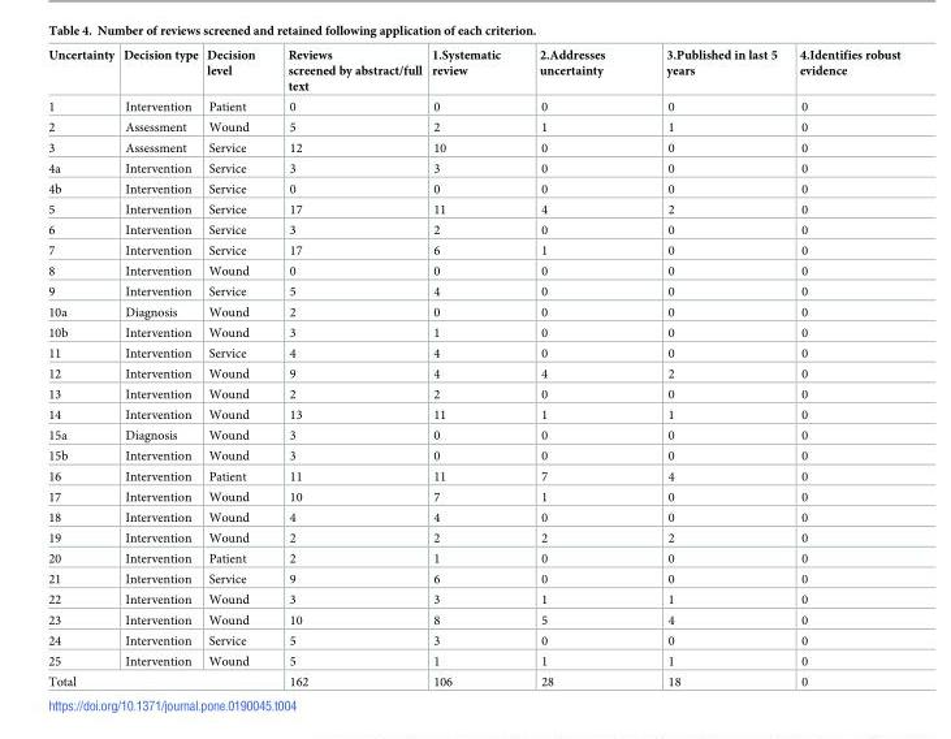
<table><thead><tr><td>Uncertainty</td><td>Decision type</td><td>Decision level</td><td>Reviews screened by abstract/full text</td><td>1.Systematic review</td><td>2.Addresses uncertainty</td><td>3.Published in last 5 years</td><td>4.Identifies robust evidence</td></tr></thead><tbody><tr><td>1</td><td>Intervention</td><td>Patient</td><td>0</td><td>0</td><td>0</td><td>0</td><td>0</td></tr><tr><td>2</td><td>Assessment</td><td>Wound</td><td>5</td><td>2</td><td>1</td><td>1</td><td>0</td></tr><tr><td>3</td><td>Assessment</td><td>Service</td><td>12</td><td>10</td><td>0</td><td>0</td><td>0</td></tr><tr><td>4a</td><td>Intervention</td><td>Service</td><td>3</td><td>3</td><td>0</td><td>0</td><td>0</td></tr><tr><td>4b</td><td>Intervention</td><td>Service</td><td>0</td><td>0</td><td>0</td><td>0</td><td>0</td></tr><tr><td>5</td><td>Intervention</td><td>Service</td><td>17</td><td>11</td><td>4</td><td>2</td><td>0</td></tr><tr><td>6</td><td>Intervention</td><td>Service</td><td>3</td><td>2</td><td>0</td><td>0</td><td>0</td></tr><tr><td>7</td><td>Intervention</td><td>Service</td><td>17</td><td>6</td><td>1</td><td>0</td><td>0</td></tr><tr><td>8</td><td>Intervention</td><td>Wound</td><td>0</td><td>0</td><td>0</td><td>0</td><td>0</td></tr><tr><td>9</td><td>Intervention</td><td>Service</td><td>5</td><td>4</td><td>0</td><td>0</td><td>0</td></tr><tr><td>10a</td><td>Diagnosis</td><td>Wound</td><td>2</td><td>0</td><td>0</td><td>0</td><td>0</td></tr><tr><td>10b</td><td>Intervention</td><td>Wound</td><td>3</td><td>1</td><td>0</td><td>0</td><td>0</td></tr><tr><td>11</td><td>Intervention</td><td>Service</td><td>4</td><td>4</td><td>0</td><td>0</td><td>0</td></tr><tr><td>12</td><td>Intervention</td><td>Wound</td><td>9</td><td>4</td><td>4</td><td>2</td><td>0</td></tr><tr><td>13</td><td>Intervention</td><td>Wound</td><td>2</td><td>2</td><td>0</td><td>0</td><td>0</td></tr><tr><td>14</td><td>Intervention</td><td>Wound</td><td>13</td><td>11</td><td>1</td><td>1</td><td>0</td></tr><tr><td>15a</td><td>Diagnosis</td><td>Wound</td><td>3</td><td>0</td><td>0</td><td>0</td><td>0</td></tr><tr><td>15b</td><td>Intervention</td><td>Wound</td><td>3</td><td>0</td><td>0</td><td>0</td><td>0</td></tr><tr><td>16</td><td>Intervention</td><td>Patient</td><td>11</td><td>11</td><td>7</td><td>4</td><td>0</td></tr><tr><td>17</td><td>Intervention</td><td>Wound</td><td>10</td><td>7</td><td>1</td><td>0</td><td>0</td></tr><tr><td>18</td><td>Intervention</td><td>Wound</td><td>4</td><td>4</td><td>0</td><td>0</td><td>0</td></tr><tr><td>19</td><td>Intervention</td><td>Wound</td><td>2</td><td>2</td><td>2</td><td>2</td><td>0</td></tr><tr><td>20</td><td>Intervention</td><td>Patient</td><td>2</td><td>1</td><td>0</td><td>0</td><td>0</td></tr><tr><td>21</td><td>Intervention</td><td>Service</td><td>9</td><td>6</td><td>0</td><td>0</td><td>0</td></tr><tr><td>22</td><td>Intervention</td><td>Wound</td><td>3</td><td>3</td><td>1</td><td>1</td><td>0</td></tr><tr><td>23</td><td>Intervention</td><td>Wound</td><td>10</td><td>8</td><td>5</td><td>4</td><td>0</td></tr><tr><td>24</td><td>Intervention</td><td>Service</td><td>5</td><td>3</td><td>0</td><td>0</td><td>0</td></tr><tr><td>25</td><td>Intervention</td><td>Wound</td><td>5</td><td>1</td><td>1</td><td>1</td><td>0</td></tr><tr><td colspan="3">Total</td><td>162</td><td>106</td><td>28</td><td>18</td><td>0</td></tr></tbody></table>